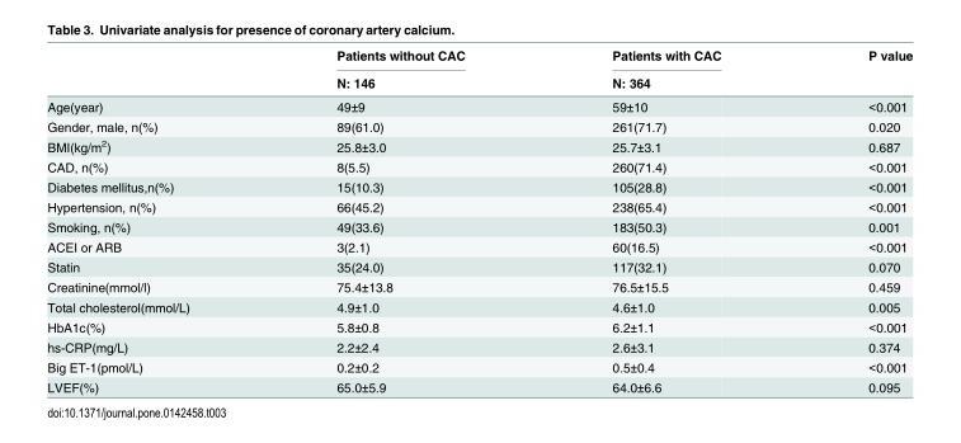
<table><thead><tr><td rowspan="2"></td><td rowspan="2">Patients without CAC N: 146</td><td rowspan="2">Patients with CAC N: 364</td><td rowspan="2">P value</td></tr><tr></tr></thead><tbody><tr><td>Age(year)</td><td>49±9</td><td>59±10</td><td>&lt;0.001</td></tr><tr><td>Gender, male, n(%)</td><td>89(61.0)</td><td>261(71.7)</td><td>0.020</td></tr><tr><td>BMI(kg/m<sup>2</sup>)</td><td>25.8±3.0</td><td>25.7±3.1</td><td>0.687</td></tr><tr><td>CAD, n(%)</td><td>8(5.5)</td><td>260(71.4)</td><td>&lt;0.001</td></tr><tr><td>Diabetes mellitus,n(%)</td><td>15(10.3)</td><td>105(28.8)</td><td>&lt;0.001</td></tr><tr><td>Hypertension, n(%)</td><td>66(45.2)</td><td>238(65.4)</td><td>&lt;0.001</td></tr><tr><td>Smoking, n(%)</td><td>49(33.6)</td><td>183(50.3)</td><td>0.001</td></tr><tr><td>ACEI or ARB</td><td>3(2.1)</td><td>60(16.5)</td><td>&lt;0.001</td></tr><tr><td>Statin</td><td>35(24.0)</td><td>117(32.1)</td><td>0.070</td></tr><tr><td>Creatinine(mmol/l)</td><td>75.4±13.8</td><td>76.5±15.5</td><td>0.459</td></tr><tr><td>Total cholesterol(mmol/L)</td><td>4.9±1.0</td><td>4.6±1.0</td><td>0.005</td></tr><tr><td>HbA1c(%)</td><td>5.8±0.8</td><td>6.2±1.1</td><td>&lt;0.001</td></tr><tr><td>hs-CRP(mg/L)</td><td>2.2±2.4</td><td>2.6±3.1</td><td>0.374</td></tr><tr><td>Big ET-1(pmol/L)</td><td>0.2±0.2</td><td>0.5±0.4</td><td>&lt;0.001</td></tr><tr><td>LVEF(%)</td><td>65.0±5.9</td><td>64.0±6.6</td><td>0.095</td></tr></tbody></table>